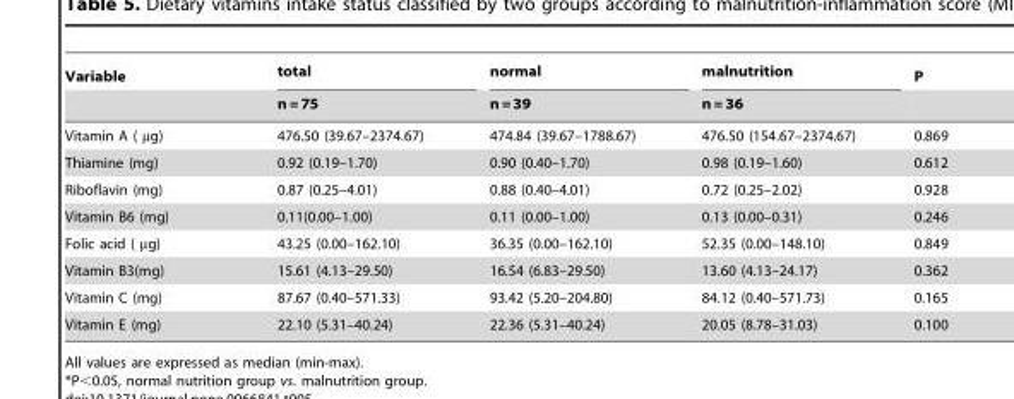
<table><thead><tr><td rowspan="2">Variable</td><td rowspan="2">total n = 75</td><td rowspan="2">normal n = 39</td><td rowspan="2">malnutrition n = 36</td><td rowspan="2">P</td></tr><tr></tr></thead><tbody><tr><td>Vitamin A ( µg)</td><td>476.50 (39.67–2374.67)</td><td>474.84 (39.67–1788.67)</td><td>476.50 (154.67–2374.67)</td><td>0.869</td></tr><tr><td>Thiamine (mg)</td><td>0.92 (0.19–1.70)</td><td>0.90 (0.40–1.70)</td><td>0.98 (0.19–1.60)</td><td>0.612</td></tr><tr><td>Riboflavin (mg)</td><td>0.87 (0.25–4.01)</td><td>0.88 (0.40–4.01)</td><td>0.72 (0.25–2.02)</td><td>0.928</td></tr><tr><td>Vitamin B6 (mg)</td><td>0.11(0.00–1.00)</td><td>0.11 (0.00–1.00)</td><td>0.13 (0.00–0.31)</td><td>0.246</td></tr><tr><td>Folic acid ( µg)</td><td>43.25 (0.00–162.10)</td><td>36.35 (0.00–162.10)</td><td>52.35 (0.00–148.10)</td><td>0.849</td></tr><tr><td>Vitamin B3(mg)</td><td>15.61 (4.13–29.50)</td><td>16.54 (6.83–29.50)</td><td>13.60 (4.13–24.17)</td><td>0.362</td></tr><tr><td>Vitamin C (mg)</td><td>87.67 (0.40–571.33)</td><td>93.42 (5.20–204.80)</td><td>84.12 (0.40–571.73)</td><td>0.165</td></tr><tr><td>Vitamin E (mg)</td><td>22.10 (5.31–40.24)</td><td>22.36 (5.31–40.24)</td><td>20.05 (8.78–31.03)</td><td>0.100</td></tr></tbody></table>